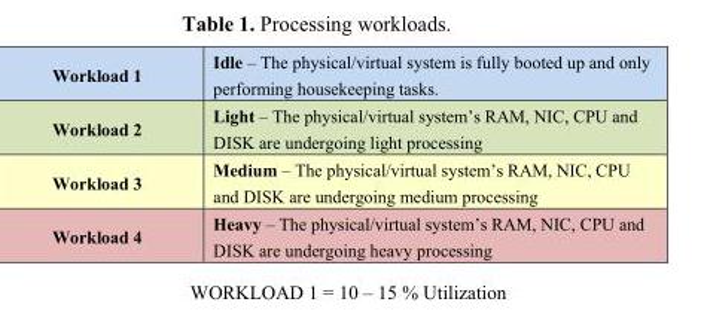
<table><tbody><tr><td>Workload 1</td><td>Idle – The physical/virtual system is fully booted up and only performing housekeeping tasks.</td></tr><tr><td>Workload 2</td><td>Light – The physical/virtual system’s RAM, NIC, CPU and DISK are undergoing light processing</td></tr><tr><td>Workload 3</td><td>Medium – The physical/virtual system’s RAM, NIC, CPU and DISK are undergoing medium processing</td></tr><tr><td>Workload 4</td><td>Heavy – The physical/virtual system’s RAM, NIC, CPU and DISK are undergoing heavy processing</td></tr></tbody></table>